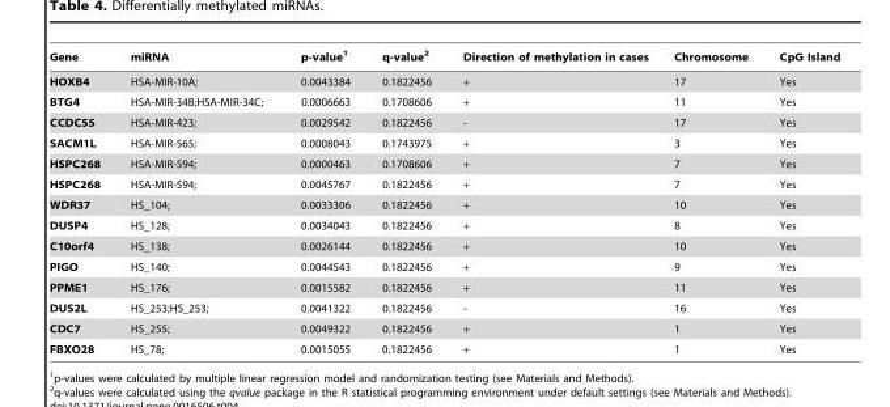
<table><thead><tr><td>Gene</td><td>miRNA</td><td>p-value<sup>1</sup></td><td>q-value<sup>2</sup></td><td>Direction of methylation in cases</td><td>Chromosome</td><td>CpG Island</td></tr></thead><tbody><tr><td>HOXB4</td><td>HSA-MIR-10A;</td><td>0.0043384</td><td>0.1822456</td><td>+</td><td>17</td><td>Yes</td></tr><tr><td>BTG4</td><td>HSA-MIR-34B;HSA-MIR-34C;</td><td>0.0006663</td><td>0.1708606</td><td>+</td><td>11</td><td>Yes</td></tr><tr><td>CCDC55</td><td>HSA-MIR-423;</td><td>0.0029542</td><td>0.1822456</td><td>-</td><td>17</td><td>Yes</td></tr><tr><td>SACM1L</td><td>HSA-MIR-565;</td><td>0.0008043</td><td>0.1743975</td><td>+</td><td>3</td><td>Yes</td></tr><tr><td>HSPC268</td><td>HSA-MIR-594;</td><td>0.0000463</td><td>0.1708606</td><td>+</td><td>7</td><td>Yes</td></tr><tr><td>HSPC268</td><td>HSA-MIR-594;</td><td>0.0045767</td><td>0.1822456</td><td>+</td><td>7</td><td>Yes</td></tr><tr><td>WDR37</td><td>HS_104;</td><td>0.0033306</td><td>0.1822456</td><td>+</td><td>10</td><td>Yes</td></tr><tr><td>DUSP4</td><td>HS_128;</td><td>0.0034043</td><td>0.1822456</td><td>+</td><td>8</td><td>Yes</td></tr><tr><td>C10orf4</td><td>HS_138;</td><td>0.0026144</td><td>0.1822456</td><td>+</td><td>10</td><td>Yes</td></tr><tr><td>PIGO</td><td>HS_140;</td><td>0.0044543</td><td>0.1822456</td><td>+</td><td>9</td><td>Yes</td></tr><tr><td>PPME1</td><td>HS_176;</td><td>0.0015582</td><td>0.1822456</td><td>+</td><td>11</td><td>Yes</td></tr><tr><td>DUS2L</td><td>HS_253;HS_253;</td><td>0.0041322</td><td>0.1822456</td><td>-</td><td>16</td><td>Yes</td></tr><tr><td>CDC7</td><td>HS_255;</td><td>0.0049322</td><td>0.1822456</td><td>+</td><td>1</td><td>Yes</td></tr><tr><td>FBXO28</td><td>HS_78;</td><td>0.0015055</td><td>0.1822456</td><td>+</td><td>1</td><td>Yes</td></tr></tbody></table>